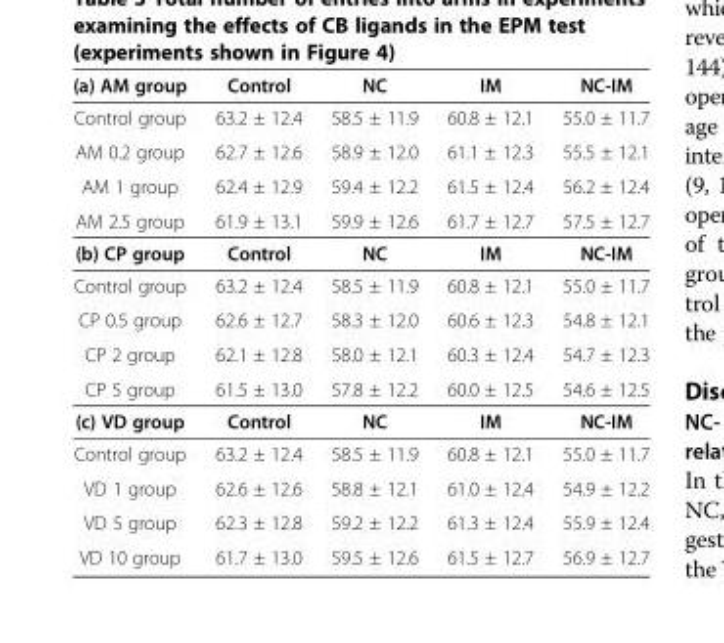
<table><thead><tr><td>(a) AM group</td><td>Control</td><td>NC</td><td>IM</td><td>NC-IM</td></tr></thead><tbody><tr><td>Control group</td><td>63.2 ± 12.4</td><td>58.5 ± 11.9</td><td>60.8 ± 12.1</td><td>55.0 ± 11.7</td></tr><tr><td>AM 0.2 group</td><td>62.7 ± 12.6</td><td>58.9 ± 12.0</td><td>61.1 ± 12.3</td><td>55.5 ± 12.1</td></tr><tr><td>AM 1 group</td><td>62.4 ± 12.9</td><td>59.4 ± 12.2</td><td>61.5 ± 12.4</td><td>56.2 ± 12.4</td></tr><tr><td>AM 2.5 group</td><td>61.9 ± 13.1</td><td>59.9 ± 12.6</td><td>61.7 ± 12.7</td><td>57.5 ± 12.7</td></tr><tr><td>(b) CP group</td><td>Control</td><td>NC</td><td>IM</td><td>NC-IM</td></tr><tr><td>Control group</td><td>63.2 ± 12.4</td><td>58.5 ± 11.9</td><td>60.8 ± 12.1</td><td>55.0 ± 11.7</td></tr><tr><td>CP 0.5 group</td><td>62.6 ± 12.7</td><td>58.3 ± 12.0</td><td>60.6 ± 12.3</td><td>54.8 ± 12.1</td></tr><tr><td>CP 2 group</td><td>62.1 ± 12.8</td><td>58.0 ± 12.1</td><td>60.3 ± 12.4</td><td>54.7 ± 12.3</td></tr><tr><td>CP 5 group</td><td>61.5 ± 13.0</td><td>57.8 ± 12.2</td><td>60.0 ± 12.5</td><td>54.6 ± 12.5</td></tr><tr><td>(c) VD group</td><td>Control</td><td>NC</td><td>IM</td><td>NC-IM</td></tr><tr><td>Control group</td><td>63.2 ± 12.4</td><td>58.5 ± 11.9</td><td>60.8 ± 12.1</td><td>55.0 ± 11.7</td></tr><tr><td>VD 1 group</td><td>62.6 ± 12.6</td><td>58.8 ± 12.1</td><td>61.0 ± 12.4</td><td>54.9 ± 12.2</td></tr><tr><td>VD 5 group</td><td>62.3 ± 12.8</td><td>59.2 ± 12.2</td><td>61.3 ± 12.4</td><td>55.9 ± 12.4</td></tr><tr><td>VD 10 group</td><td>61.7 ± 13.0</td><td>59.5 ± 12.6</td><td>61.5 ± 12.7</td><td>56.9 ± 12.7</td></tr></tbody></table>